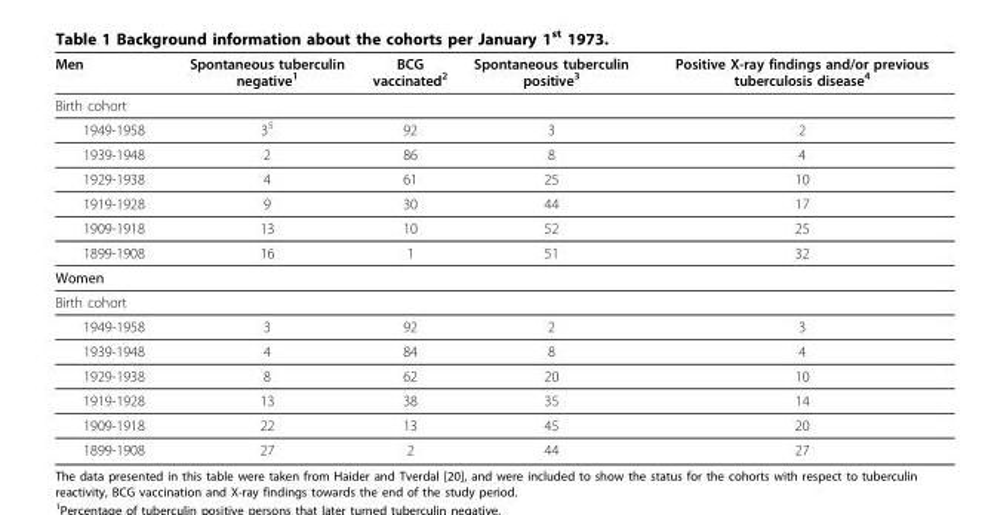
<table><thead><tr><td>Men</td><td>Spontaneous tuberculin negative<sup>1</sup></td><td>BCG vaccinated<sup>2</sup></td><td>Spontaneous tuberculin positive<sup>3</sup></td><td>Positive X-ray findings and/or previous tuberculosis disease<sup>4</sup></td></tr></thead><tbody><tr><td colspan="5">Birth cohort</td></tr><tr><td>1949-1958</td><td>3<sup>5</sup></td><td>92</td><td>3</td><td>2</td></tr><tr><td>1939-1948</td><td>2</td><td>86</td><td>8</td><td>4</td></tr><tr><td>1929-1938</td><td>4</td><td>61</td><td>25</td><td>10</td></tr><tr><td>1919-1928</td><td>9</td><td>30</td><td>44</td><td>17</td></tr><tr><td>1909-1918</td><td>13</td><td>10</td><td>52</td><td>25</td></tr><tr><td>1899-1908</td><td>16</td><td>1</td><td>51</td><td>32</td></tr><tr><td colspan="5">Women</td></tr><tr><td colspan="5">Birth cohort</td></tr><tr><td>1949-1958</td><td>3</td><td>92</td><td>2</td><td>3</td></tr><tr><td>1939-1948</td><td>4</td><td>84</td><td>8</td><td>4</td></tr><tr><td>1929-1938</td><td>8</td><td>62</td><td>20</td><td>10</td></tr><tr><td>1919-1928</td><td>13</td><td>38</td><td>35</td><td>14</td></tr><tr><td>1909-1918</td><td>22</td><td>13</td><td>45</td><td>20</td></tr><tr><td>1899-1908</td><td>27</td><td>2</td><td>44</td><td>27</td></tr></tbody></table>